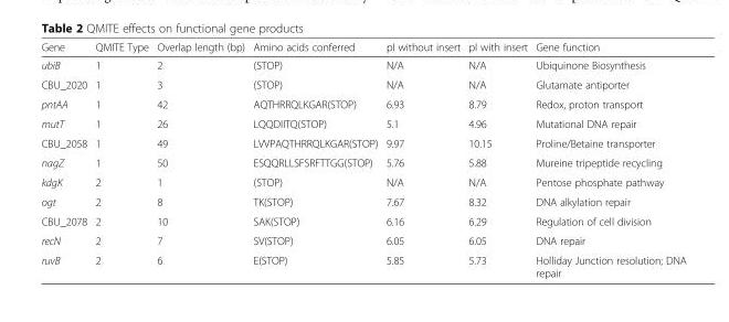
<table><thead><tr><td>Gene</td><td>QMITE Type</td><td>Overlap length (bp)</td><td>Amino acids conferred</td><td>pI without insert</td><td>pI with insert</td><td>Gene function</td></tr></thead><tbody><tr><td>ubiB</td><td>1</td><td>2</td><td>(STOP)</td><td>N/A</td><td>N/A</td><td>Ubiquinone Biosynthesis</td></tr><tr><td>CBU_2020</td><td>1</td><td>3</td><td>(STOP)</td><td>N/A</td><td>N/A</td><td>Glutamate antiporter</td></tr><tr><td>pntAA</td><td>1</td><td>42</td><td>AQTHRRQLKGAR(STOP)</td><td>6.93</td><td>8.79</td><td>Redox, proton transport</td></tr><tr><td>mutT</td><td>1</td><td>26</td><td>LQQDIITQ(STOP)</td><td>5.1</td><td>4.96</td><td>Mutational DNA repair</td></tr><tr><td>CBU_2058</td><td>1</td><td>49</td><td>LVVPAQTHRRQLKGAR(STOP)</td><td>9.97</td><td>10.15</td><td>Proline/Betaine transporter</td></tr><tr><td>nagZ</td><td>1</td><td>50</td><td>ESQQRLLSFSRFTTGG(STOP)</td><td>5.76</td><td>5.88</td><td>Mureine tripeptide recycling</td></tr><tr><td>kdgK</td><td>2</td><td>1</td><td>(STOP)</td><td>N/A</td><td>N/A</td><td>Pentose phosphate pathway</td></tr><tr><td>ogt</td><td>2</td><td>8</td><td>TK(STOP)</td><td>7.67</td><td>8.32</td><td>DNA alkylation repair</td></tr><tr><td>CBU_2078</td><td>2</td><td>10</td><td>SAK(STOP)</td><td>6.16</td><td>6.29</td><td>Regulation of cell division</td></tr><tr><td>recN</td><td>2</td><td>7</td><td>SV(STOP)</td><td>6.05</td><td>6.05</td><td>DNA repair</td></tr><tr><td>ruvB</td><td>2</td><td>6</td><td>E(STOP)</td><td>5.85</td><td>5.73</td><td>Holliday Junction resolution; DNA repair</td></tr></tbody></table>